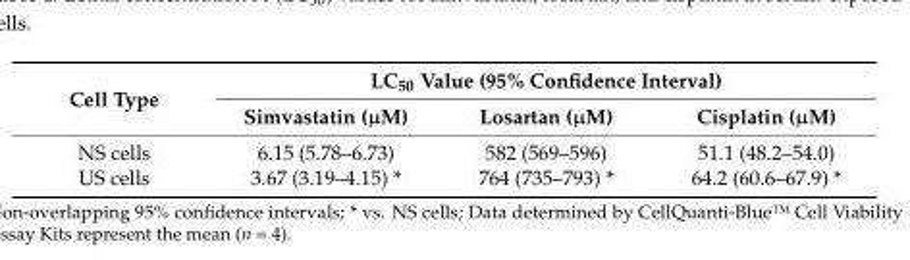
<table><thead><tr><td rowspan="2">Cell Type</td><td colspan="3">LC<sub>50</sub> Value (95% Confidence Interval)</td></tr><tr><td>Simvastatin (µM)</td><td>Losartan (µM)</td><td>Cisplatin (µM)</td></tr></thead><tbody><tr><td>NS cells</td><td>6.15 (5.78–6.73)</td><td>582 (569–596)</td><td>51.1 (48.2–54.0)</td></tr><tr><td>US cells</td><td>3.67 (3.19–4.15) *</td><td>764 (735–793) *</td><td>64.2 (60.6–67.9) *</td></tr></tbody></table>